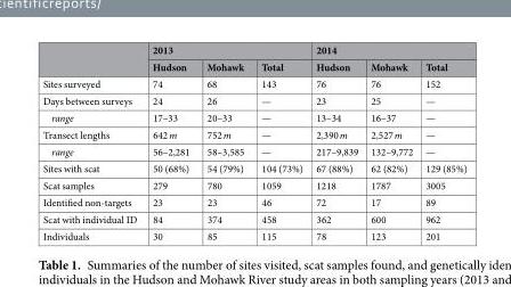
<table><thead><tr><td rowspan="2"></td><td colspan="3">2013</td><td colspan="3">2014</td></tr><tr><td>Hudson</td><td>Mohawk</td><td>Total</td><td>Hudson</td><td>Mohawk</td><td>Total</td></tr></thead><tbody><tr><td>Sites surveyed</td><td>74</td><td>68</td><td>143</td><td>76</td><td>76</td><td>152</td></tr><tr><td>Days between surveys</td><td>24</td><td>26</td><td>—</td><td>23</td><td>25</td><td>—</td></tr><tr><td>range</td><td>17–33</td><td>20–33</td><td>—</td><td>13–34</td><td>16–37</td><td>—</td></tr><tr><td>Transect lengths</td><td>642 m</td><td>752 m</td><td>—</td><td>2,390 m</td><td>2,527 m</td><td>—</td></tr><tr><td>range</td><td>56–2,281</td><td>58–3,585</td><td>—</td><td>217–9,839</td><td>132–9,772</td><td>—</td></tr><tr><td>Sites with scat</td><td>50 (68%)</td><td>54 (79%)</td><td>104 (73%)</td><td>67 (88%)</td><td>62 (82%)</td><td>129 (85%)</td></tr><tr><td>Scat samples</td><td>279</td><td>780</td><td>1059</td><td>1218</td><td>1787</td><td>3005</td></tr><tr><td>Identified non-targets</td><td>23</td><td>23</td><td>46</td><td>72</td><td>17</td><td>89</td></tr><tr><td>Scat with individual ID</td><td>84</td><td>374</td><td>458</td><td>362</td><td>600</td><td>962</td></tr><tr><td>Individuals</td><td>30</td><td>85</td><td>115</td><td>78</td><td>123</td><td>201</td></tr></tbody></table>